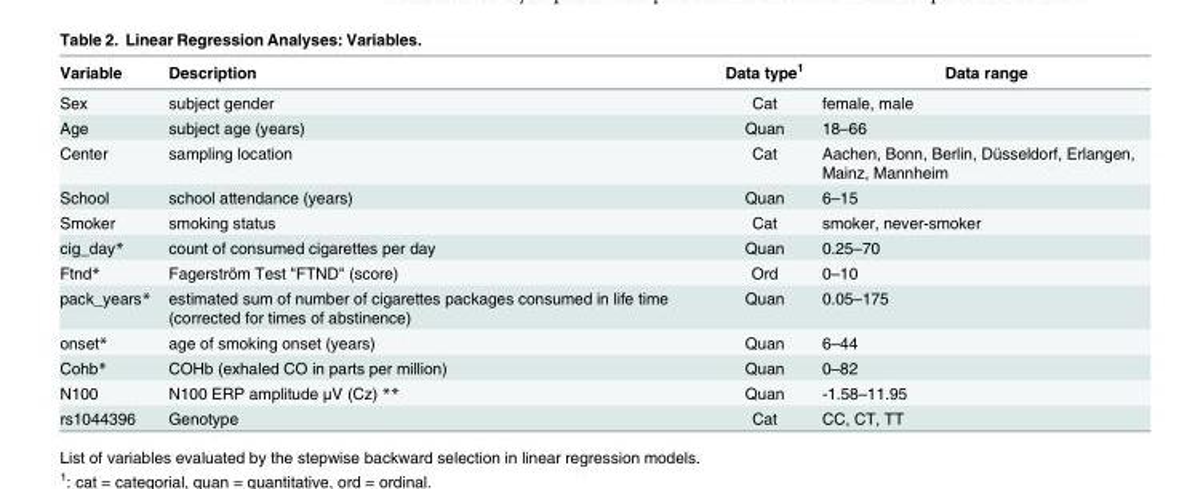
<table><thead><tr><td>Variable</td><td>Description</td><td>Data type<sup>1</sup></td><td>Data range</td></tr></thead><tbody><tr><td>Sex</td><td>subject gender</td><td>Cat</td><td>female, male</td></tr><tr><td>Age</td><td>subject age (years)</td><td>Quan</td><td>18–66</td></tr><tr><td>Center</td><td>sampling location</td><td>Cat</td><td>Aachen, Bonn, Berlin, Düsseldorf, Erlangen, Mainz, Mannheim</td></tr><tr><td>School</td><td>school attendance (years)</td><td>Quan</td><td>6–15</td></tr><tr><td>Smoker</td><td>smoking status</td><td>Cat</td><td>smoker, never-smoker</td></tr><tr><td>cig_day*</td><td>count of consumed cigarettes per day</td><td>Quan</td><td>0.25–70</td></tr><tr><td>Ftnd*</td><td>Fagerström Test &quot;FTND&quot; (score)</td><td>Ord</td><td>0–10</td></tr><tr><td>pack_years*</td><td>estimated sum of number of cigarettes packages consumed in life time (corrected for times of abstinence)</td><td>Quan</td><td>0.05–175</td></tr><tr><td>onset*</td><td>age of smoking onset (years)</td><td>Quan</td><td>6–44</td></tr><tr><td>Cohb*</td><td>COHb (exhaled CO in parts per million)</td><td>Quan</td><td>0–82</td></tr><tr><td>N100</td><td>N100 ERP amplitude μV (Cz) **</td><td>Quan</td><td>-1.58–11.95</td></tr><tr><td>rs1044396</td><td>Genotype</td><td>Cat</td><td>CC, CT, TT</td></tr></tbody></table>